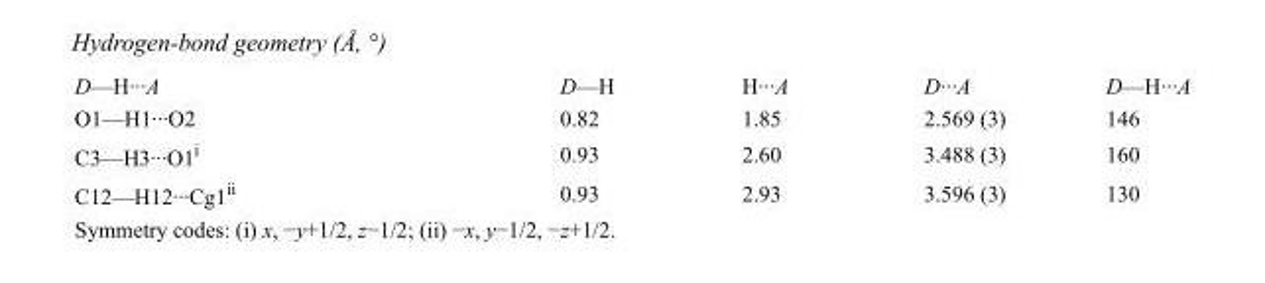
<table><tbody><tr><td>D—H···A</td><td>D—H</td><td>H···A</td><td>D···A</td><td>D—H···A</td></tr><tr><td>O1—H1···O2</td><td>0.82</td><td>1.85</td><td>2.569 (3)</td><td>146</td></tr><tr><td>C3—H3···O1<sup>i</sup></td><td>0.93</td><td>2.60</td><td>3.488 (3)</td><td>160</td></tr><tr><td>C12—H12···Cg1<sup>ii</sup></td><td>0.93</td><td>2.93</td><td>3.596 (3)</td><td>130</td></tr></tbody></table>